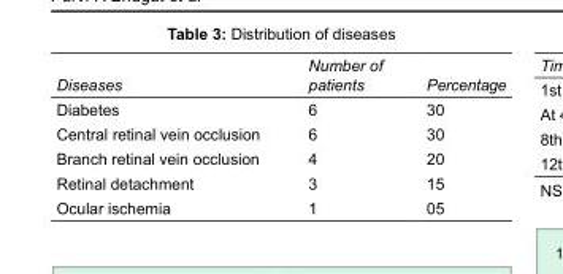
<table><tbody><tr><td>Diseases</td><td>Number of patients</td><td>Percentage</td></tr><tr><td>Diabetes</td><td>6</td><td>30</td></tr><tr><td>Central retinal vein occlusion</td><td>6</td><td>30</td></tr><tr><td>Branch retinal vein occlusion</td><td>4</td><td>20</td></tr><tr><td>Retinal detachment</td><td>3</td><td>15</td></tr><tr><td>Ocular ischemia</td><td>1</td><td>05</td></tr></tbody></table>